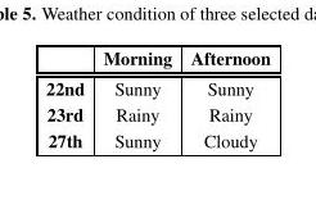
<table><thead><tr><td></td><td>Morning</td><td>Afternoon</td></tr></thead><tbody><tr><td>22nd</td><td>Sunny</td><td>Sunny</td></tr><tr><td>23rd</td><td>Rainy</td><td>Rainy</td></tr><tr><td>27th</td><td>Sunny</td><td>Cloudy</td></tr></tbody></table>